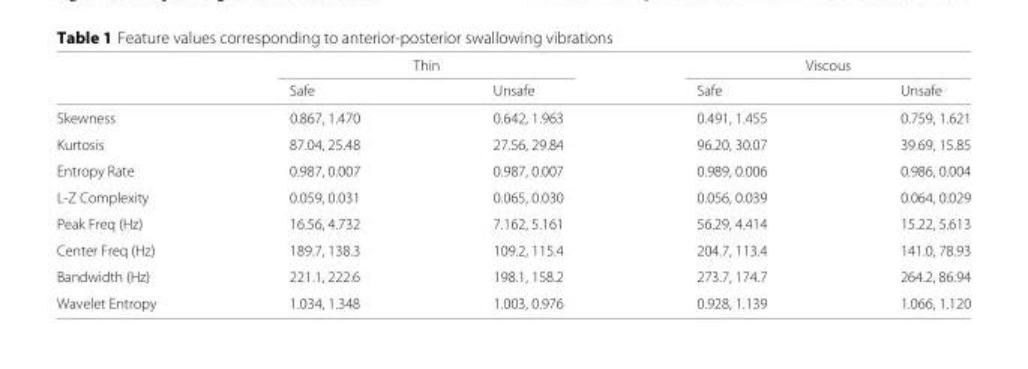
<table><thead><tr><td rowspan="2"></td><td colspan="2">Thin</td><td colspan="2">Viscous</td></tr><tr><td>Safe</td><td>Unsafe</td><td>Safe</td><td>Unsafe</td></tr></thead><tbody><tr><td>Skewness</td><td>0.867, 1.470</td><td>0.642, 1.963</td><td>0.491, 1.455</td><td>0.759, 1.621</td></tr><tr><td>Kurtosis</td><td>87.04, 25.48</td><td>27.56, 29.84</td><td>96.20, 30.07</td><td>39.69, 15.85</td></tr><tr><td>Entropy Rate</td><td>0.987, 0.007</td><td>0.987, 0.007</td><td>0.989, 0.006</td><td>0.986, 0.004</td></tr><tr><td>L-Z Complexity</td><td>0.059, 0.031</td><td>0.065, 0.030</td><td>0.056, 0.039</td><td>0.064, 0.029</td></tr><tr><td>Peak Freq (Hz)</td><td>16.56, 4.732</td><td>7.162, 5.161</td><td>56.29, 4.414</td><td>15.22, 5.613</td></tr><tr><td>Center Freq (Hz)</td><td>189.7, 138.3</td><td>109.2, 115.4</td><td>204.7, 113.4</td><td>141.0, 78.93</td></tr><tr><td>Bandwidth (Hz)</td><td>221.1, 222.6</td><td>198.1, 158.2</td><td>273.7, 174.7</td><td>264.2, 86.94</td></tr><tr><td>Wavelet Entropy</td><td>1.034, 1.348</td><td>1.003, 0.976</td><td>0.928, 1.139</td><td>1.066, 1.120</td></tr></tbody></table>